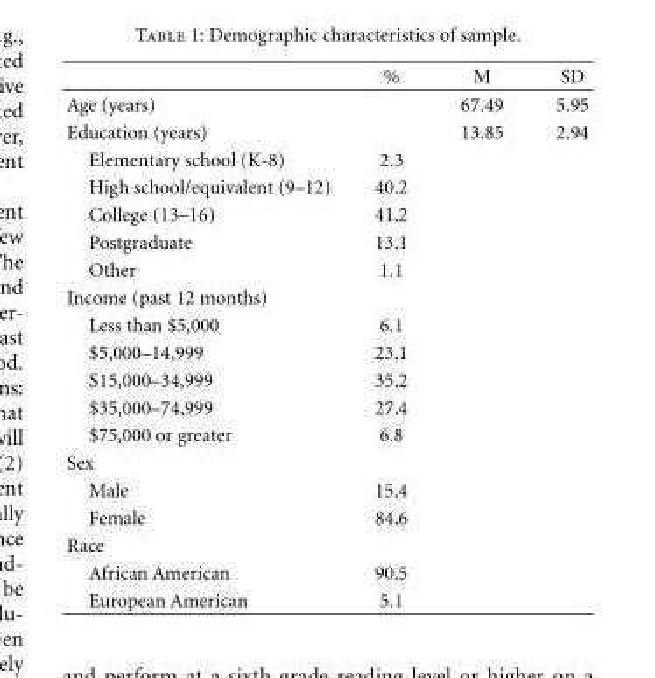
<table><thead><tr><td></td><td>%</td><td>M</td><td>SD</td></tr></thead><tbody><tr><td>Age (years)</td><td></td><td>67.49</td><td>5.95</td></tr><tr><td>Education (years)</td><td></td><td>13.85</td><td>2.94</td></tr><tr><td>Elementary school (K-8)</td><td>2.3</td><td></td><td></td></tr><tr><td>High school/equivalent (9–12)</td><td>40.2</td><td></td><td></td></tr><tr><td>College (13–16)</td><td>41.2</td><td></td><td></td></tr><tr><td>Postgraduate</td><td>13.1</td><td></td><td></td></tr><tr><td>Other</td><td>1.1</td><td></td><td></td></tr><tr><td colspan="4">Income (past 12 months)</td></tr><tr><td>Less than $5,000</td><td>6.1</td><td></td><td></td></tr><tr><td>$5,000–14,999</td><td>23.1</td><td></td><td></td></tr><tr><td>S15,000–34,999</td><td>35.2</td><td></td><td></td></tr><tr><td>$35,000–74,999</td><td>27.4</td><td></td><td></td></tr><tr><td>$75,000 or greater</td><td>6.8</td><td></td><td></td></tr><tr><td colspan="4">Sex</td></tr><tr><td>Male</td><td>15.4</td><td></td><td></td></tr><tr><td>Female</td><td>84.6</td><td></td><td></td></tr><tr><td colspan="4">Race</td></tr><tr><td>African American</td><td>90.5</td><td></td><td></td></tr><tr><td>European American</td><td>5.1</td><td></td><td></td></tr></tbody></table>